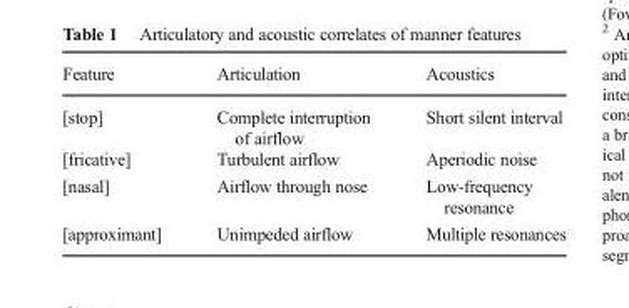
<table><thead><tr><td>Feature</td><td>Articulation</td><td>Acoustics</td></tr></thead><tbody><tr><td>[stop]</td><td>Complete interruption of airflow</td><td>Short silent interval</td></tr><tr><td>[fricative]</td><td>Turbulent airflow</td><td>Aperiodic noise</td></tr><tr><td>[nasal]</td><td>Airflow through nose</td><td>Low-frequency resonance</td></tr><tr><td>[approximant]</td><td>Unimpeded airflow</td><td>Multiple resonances</td></tr></tbody></table>